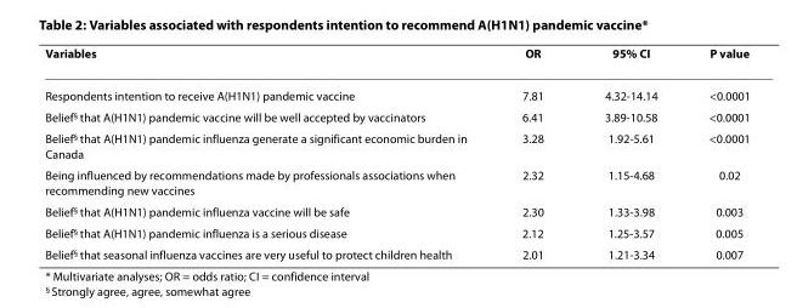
<table><thead><tr><td>Variables</td><td>OR</td><td>95% CI</td><td>P value</td></tr></thead><tbody><tr><td>Respondents intention to receive A(H1N1) pandemic vaccine</td><td>7.81</td><td>4.32-14.14</td><td>&lt;0.0001</td></tr><tr><td>Belief<sup>§</sup> that A(H1N1) pandemic vaccine will be well accepted by vaccinators</td><td>6.41</td><td>3.89-10.58</td><td>&lt;0.0001</td></tr><tr><td>Belief<sup>§</sup> that A(H1N1) pandemic influenza generate a significant economic burden in Canada</td><td>3.28</td><td>1.92-5.61</td><td>&lt;0.0001</td></tr><tr><td>Being influenced by recommendations made by professionals associations when recommending new vaccines</td><td>2.32</td><td>1.15-4.68</td><td>0.02</td></tr><tr><td>Belief<sup>§</sup> that A(H1N1) pandemic influenza vaccine will be safe</td><td>2.30</td><td>1.33-3.98</td><td>0.003</td></tr><tr><td>Belief<sup>§</sup> that A(H1N1) pandemic influenza is a serious disease</td><td>2.12</td><td>1.25-3.57</td><td>0.005</td></tr><tr><td>Belief<sup>§</sup> that seasonal influenza vaccines are very useful to protect children health</td><td>2.01</td><td>1.21-3.34</td><td>0.007</td></tr></tbody></table>